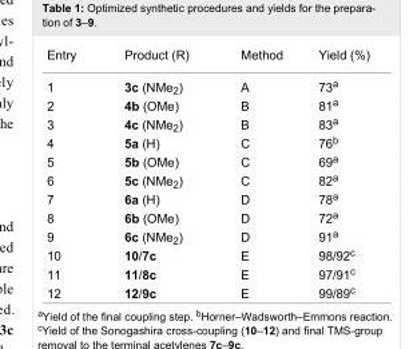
<table><tbody><tr><td>Entry</td><td>Product (R)</td><td>Method</td><td>Yield (%)</td></tr><tr><td>1</td><td>3c (NMe<sub>2</sub>)</td><td>A</td><td>73<sup>a</sup></td></tr><tr><td>2</td><td>4b (OMe)</td><td>B</td><td>81<sup>a</sup></td></tr><tr><td>3</td><td>4c (NMe<sub>2</sub>)</td><td>B</td><td>83<sup>a</sup></td></tr><tr><td>4</td><td>5a (H)</td><td>C</td><td>76<sup>b</sup></td></tr><tr><td>5</td><td>5b (OMe)</td><td>C</td><td>69<sup>a</sup></td></tr><tr><td>6</td><td>5c (NMe<sub>2</sub>)</td><td>C</td><td>82<sup>a</sup></td></tr><tr><td>7</td><td>6a (H)</td><td>D</td><td>78<sup>a</sup></td></tr><tr><td>8</td><td>6b (OMe)</td><td>D</td><td>72<sup>a</sup></td></tr><tr><td>9</td><td>6c (NMe<sub>2</sub>)</td><td>D</td><td>91<sup>a</sup></td></tr><tr><td>10</td><td>10/7c</td><td>E</td><td>98/92<sup>c</sup></td></tr><tr><td>11</td><td>11/8c</td><td>E</td><td>97/91<sup>c</sup></td></tr><tr><td>12</td><td>12/9c</td><td>E</td><td>99/89<sup>c</sup></td></tr></tbody></table>